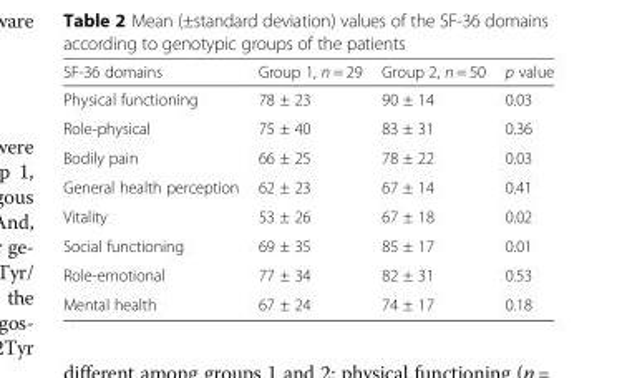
<table><thead><tr><td>SF-36 domains</td><td>Group 1, n = 29</td><td>Group 2, n = 50</td><td>p value</td></tr></thead><tbody><tr><td>Physical functioning</td><td>78 ± 23</td><td>90 ± 14</td><td>0.03</td></tr><tr><td>Role-physical</td><td>75 ± 40</td><td>83 ± 31</td><td>0.36</td></tr><tr><td>Bodily pain</td><td>66 ± 25</td><td>78 ± 22</td><td>0.03</td></tr><tr><td>General health perception</td><td>62 ± 23</td><td>67 ± 14</td><td>0.41</td></tr><tr><td>Vitality</td><td>53 ± 26</td><td>67 ± 18</td><td>0.02</td></tr><tr><td>Social functioning</td><td>69 ± 35</td><td>85 ± 17</td><td>0.01</td></tr><tr><td>Role-emotional</td><td>77 ± 34</td><td>82 ± 31</td><td>0.53</td></tr><tr><td>Mental health</td><td>67 ± 24</td><td>74 ± 17</td><td>0.18</td></tr></tbody></table>